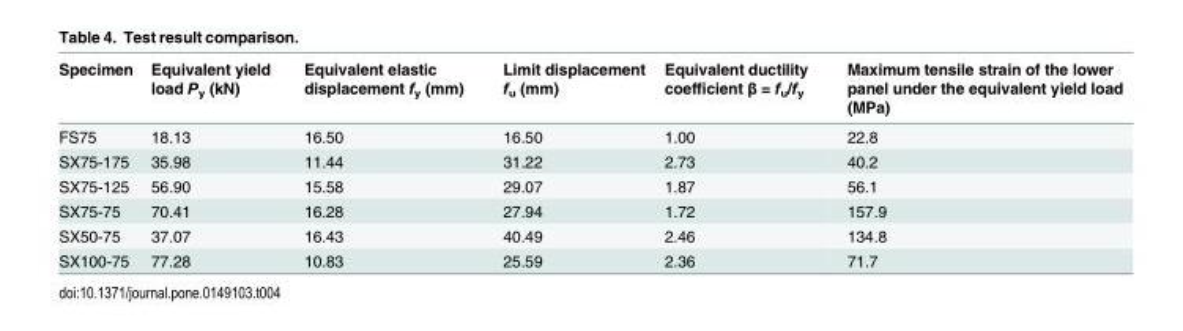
<table><thead><tr><td>Specimen</td><td>Equivalent yield load P<sub>y</sub> (kN)</td><td>Equivalent elastic displacement f<sub>y</sub> (mm)</td><td>Limit displacement f<sub>u</sub> (mm)</td><td>Equivalent ductility coefficient β = f<sub>u</sub>/f<sub>y</sub></td><td>Maximum tensile strain of the lower panel under the equivalent yield load (MPa)</td></tr></thead><tbody><tr><td>FS75</td><td>18.13</td><td>16.50</td><td>16.50</td><td>1.00</td><td>22.8</td></tr><tr><td>SX75-175</td><td>35.98</td><td>11.44</td><td>31.22</td><td>2.73</td><td>40.2</td></tr><tr><td>SX75-125</td><td>56.90</td><td>15.58</td><td>29.07</td><td>1.87</td><td>56.1</td></tr><tr><td>SX75-75</td><td>70.41</td><td>16.28</td><td>27.94</td><td>1.72</td><td>157.9</td></tr><tr><td>SX50-75</td><td>37.07</td><td>16.43</td><td>40.49</td><td>2.46</td><td>134.8</td></tr><tr><td>SX100-75</td><td>77.28</td><td>10.83</td><td>25.59</td><td>2.36</td><td>71.7</td></tr></tbody></table>